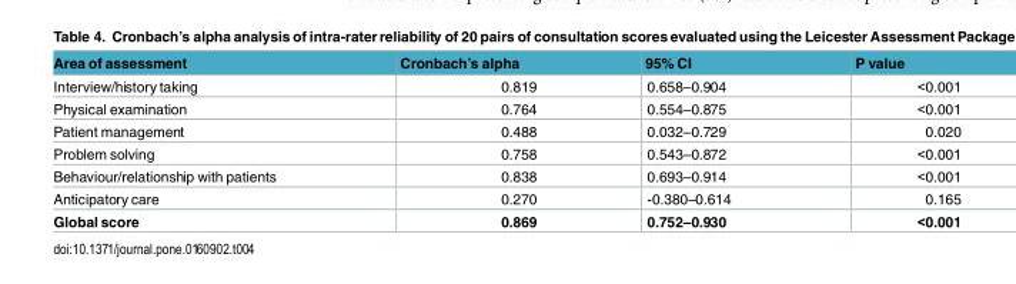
<table><thead><tr><td>Area of assessment</td><td>Cronbach’s alpha</td><td>95% CI</td><td>P value</td></tr></thead><tbody><tr><td>Interview/history taking</td><td>0.819</td><td>0.658–0.904</td><td>&lt;0.001</td></tr><tr><td>Physical examination</td><td>0.764</td><td>0.554–0.875</td><td>&lt;0.001</td></tr><tr><td>Patient management</td><td>0.488</td><td>0.032–0.729</td><td>0.020</td></tr><tr><td>Problem solving</td><td>0.758</td><td>0.543–0.872</td><td>&lt;0.001</td></tr><tr><td>Behaviour/relationship with patients</td><td>0.838</td><td>0.693–0.914</td><td>&lt;0.001</td></tr><tr><td>Anticipatory care</td><td>0.270</td><td>-0.380–0.614</td><td>0.165</td></tr><tr><td>Global score</td><td>0.869</td><td>0.752–0.930</td><td>&lt;0.001</td></tr></tbody></table>